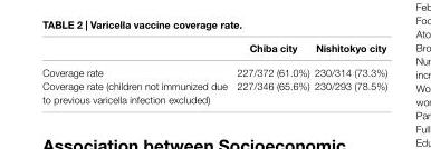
<table><thead><tr><td></td><td>chiba city</td><td>nishitokyo city</td></tr></thead><tbody><tr><td>Coverage rate</td><td>227/372 (61.0%)</td><td>230/314 (73.3%)</td></tr><tr><td>Coverage rate (children not immunized due to previous varicella infection excluded)</td><td>227/346 (65.6%)</td><td>230/293 (78.5%)</td></tr></tbody></table>